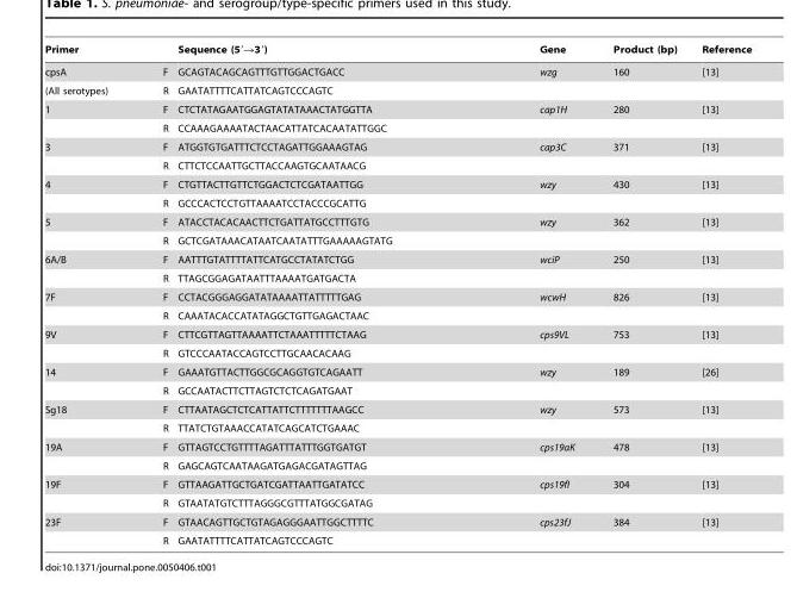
<table><thead><tr><td>Primer</td><td></td><td>Sequence (5′→3′)</td><td>Gene</td><td>Product (bp)</td><td>Reference</td></tr></thead><tbody><tr><td>cpsA</td><td>F</td><td>GCAGTACAGCAGTTTGTTGGACTGACC</td><td>wzg</td><td>160</td><td>[13]</td></tr><tr><td>(All serotypes)</td><td>R</td><td>GAATATTTTCATTATCAGTCCCAGTC</td><td></td><td></td><td></td></tr><tr><td rowspan="2">1</td><td>F</td><td>CTCTATAGAATGGAGTATATAAACTATGGTTA</td><td>cap1H</td><td>280</td><td>[13]</td></tr><tr><td>R</td><td>CCAAAGAAAATACTAACATTATCACAATATTGGC</td><td></td><td></td><td></td></tr><tr><td rowspan="2">3</td><td>F</td><td>ATGGTGTGATTTCTCCTAGATTGGAAAGTAG</td><td>cap3C</td><td>371</td><td>[13]</td></tr><tr><td>R</td><td>CTTCTCCAATTGCTTACCAAGTGCAATAACG</td><td></td><td></td><td></td></tr><tr><td rowspan="2">4</td><td>F</td><td>CTGTTACTTGTTCTGGACTCTCGATAATTGG</td><td>wzy</td><td>430</td><td>[13]</td></tr><tr><td>R</td><td>GCCCACTCCTGTTAAAATCCTACCCGCATTG</td><td></td><td></td><td></td></tr><tr><td rowspan="2">5</td><td>F</td><td>ATACCTACACAACTTCTGATTATGCCTTTGTG</td><td>wzy</td><td>362</td><td>[13]</td></tr><tr><td>R</td><td>GCTCGATAAACATAATCAATATTTGAAAAAGTATG</td><td></td><td></td><td></td></tr><tr><td rowspan="2">6A/B</td><td>F</td><td>AATTTGTATTTTATTCATGCCTATATCTGG</td><td>wciP</td><td>250</td><td>[13]</td></tr><tr><td>R</td><td>TTAGCGGAGATAATTTAAAATGATGACTA</td><td></td><td></td><td></td></tr><tr><td rowspan="2">7F</td><td>F</td><td>CCTACGGGAGGATATAAAATTATTTTTGAG</td><td>wcwH</td><td>826</td><td>[13]</td></tr><tr><td>R</td><td>CAAATACACCATATAGGCTGTTGAGACTAAC</td><td></td><td></td><td></td></tr><tr><td rowspan="2">9V</td><td>F</td><td>CTTCGTTAGTTAAAATTCTAAATTTTTCTAAG</td><td>cps9VL</td><td>753</td><td>[13]</td></tr><tr><td>R</td><td>GTCCCAATACCAGTCCTTGCAACACAAG</td><td></td><td></td><td></td></tr><tr><td rowspan="2">14</td><td>F</td><td>GAAATGTTACTTGGCGCAGGTGTCAGAATT</td><td>wzy</td><td>189</td><td>[26]</td></tr><tr><td>R</td><td>GCCAATACTTCTTAGTCTCTCAGATGAAT</td><td></td><td></td><td></td></tr><tr><td rowspan="2">Sg18</td><td>F</td><td>CTTAATAGCTCTCATTATTCTTTTTTTAAGCC</td><td>wzy</td><td>573</td><td>[13]</td></tr><tr><td>R</td><td>TTATCTGTAAACCATATCAGCATCTGAAAC</td><td></td><td></td><td></td></tr><tr><td rowspan="2">19A</td><td>F</td><td>GTTAGTCCTGTTTTAGATTTATTTGGTGATGT</td><td>cps19aK</td><td>478</td><td>[13]</td></tr><tr><td>R</td><td>GAGCAGTCAATAAGATGAGACGATAGTTAG</td><td></td><td></td><td></td></tr><tr><td rowspan="2">19F</td><td>F</td><td>GTTAAGATTGCTGATCGATTAATTGATATCC</td><td>cps19fI</td><td>304</td><td>[13]</td></tr><tr><td>R</td><td>GTAATATGTCTTTAGGGCGTTTATGGCGATAG</td><td></td><td></td><td></td></tr><tr><td rowspan="2">23F</td><td>F</td><td>GTAACAGTTGCTGTAGAGGGAATTGGCTTTTC</td><td>cps23fJ</td><td>384</td><td>[13]</td></tr><tr><td>R</td><td>GAATATTTTCATTATCAGTCCCAGTC</td><td></td><td></td><td></td></tr></tbody></table>